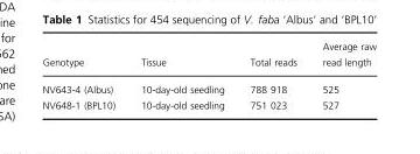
<table><thead><tr><td>Genotype</td><td>Tissue</td><td>Total reads</td><td>Average raw read length</td></tr></thead><tbody><tr><td>NV643-4 (Albus)</td><td>10-day-old seedling</td><td>788 918</td><td>525</td></tr><tr><td>NV648-1 (BPL10)</td><td>10-day-old seedling</td><td>751 023</td><td>527</td></tr></tbody></table>